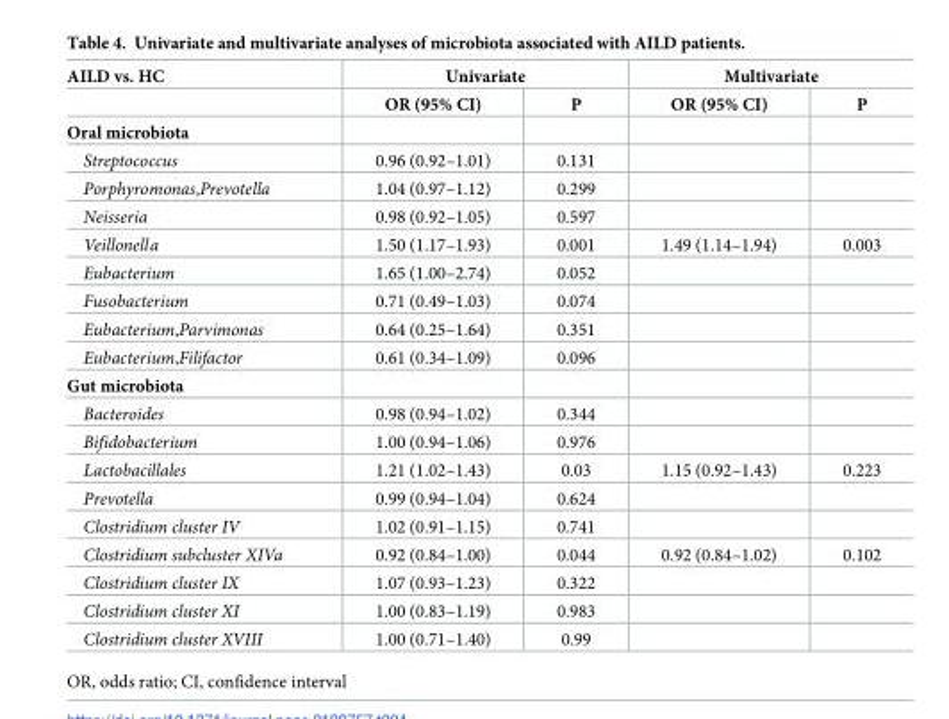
<table><thead><tr><td rowspan="2">AILD vs. HC</td><td colspan="2">Univariate</td><td colspan="2">Multivariate</td></tr><tr><td>OR (95% CI)</td><td>P</td><td>OR (95% CI)</td><td>P</td></tr></thead><tbody><tr><td colspan="5">Oral microbiota</td></tr><tr><td>Streptococcus</td><td>0.96 (0.92–1.01)</td><td>0.131</td><td></td><td></td></tr><tr><td>Porphyromonas,Prevotella</td><td>1.04 (0.97–1.12)</td><td>0.299</td><td></td><td></td></tr><tr><td>Neisseria</td><td>0.98 (0.92–1.05)</td><td>0.597</td><td></td><td></td></tr><tr><td>Veillonella</td><td>1.50 (1.17–1.93)</td><td>0.001</td><td>1.49 (1.14–1.94)</td><td>0.003</td></tr><tr><td>Eubacterium</td><td>1.65 (1.00–2.74)</td><td>0.052</td><td></td><td></td></tr><tr><td>Fusobacterium</td><td>0.71 (0.49–1.03)</td><td>0.074</td><td></td><td></td></tr><tr><td>Eubacterium,Parvimonas</td><td>0.64 (0.25–1.64)</td><td>0.351</td><td></td><td></td></tr><tr><td>Eubacterium,Filifactor</td><td>0.61 (0.34–1.09)</td><td>0.096</td><td></td><td></td></tr><tr><td colspan="5">Gut microbiota</td></tr><tr><td>Bacteroides</td><td>0.98 (0.94–1.02)</td><td>0.344</td><td></td><td></td></tr><tr><td>Bifidobacterium</td><td>1.00 (0.94–1.06)</td><td>0.976</td><td></td><td></td></tr><tr><td>Lactobacillales</td><td>1.21 (1.02–1.43)</td><td>0.03</td><td>1.15 (0.92–1.43)</td><td>0.223</td></tr><tr><td>Prevotella</td><td>0.99 (0.94–1.04)</td><td>0.624</td><td></td><td></td></tr><tr><td>Clostridium cluster IV</td><td>1.02 (0.91–1.15)</td><td>0.741</td><td></td><td></td></tr><tr><td>Clostridium subcluster XIVa</td><td>0.92 (0.84–1.00)</td><td>0.044</td><td>0.92 (0.84–1.02)</td><td>0.102</td></tr><tr><td>Clostridium cluster IX</td><td>1.07 (0.93–1.23)</td><td>0.322</td><td></td><td></td></tr><tr><td>Clostridium cluster XI</td><td>1.00 (0.83–1.19)</td><td>0.983</td><td></td><td></td></tr><tr><td>Clostridium cluster XVIII</td><td>1.00 (0.71–1.40)</td><td>0.99</td><td></td><td></td></tr></tbody></table>